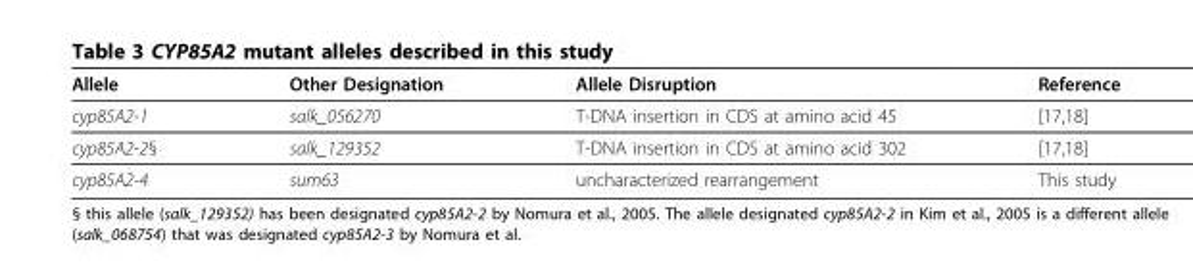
<table><thead><tr><td>Allele</td><td>Other Designation</td><td>Allele Disruption</td><td>Reference</td></tr></thead><tbody><tr><td>cyp85A2-1</td><td>salk_056270</td><td>T-DNA insertion in CDS at amino acid 45</td><td>[17,18]</td></tr><tr><td>cyp85A2-2§</td><td>salk_129352</td><td>T-DNA insertion in CDS at amino acid 302</td><td>[17,18]</td></tr><tr><td>cyp85A2-4</td><td>sum63</td><td>uncharacterized rearrangement</td><td>This study</td></tr></tbody></table>